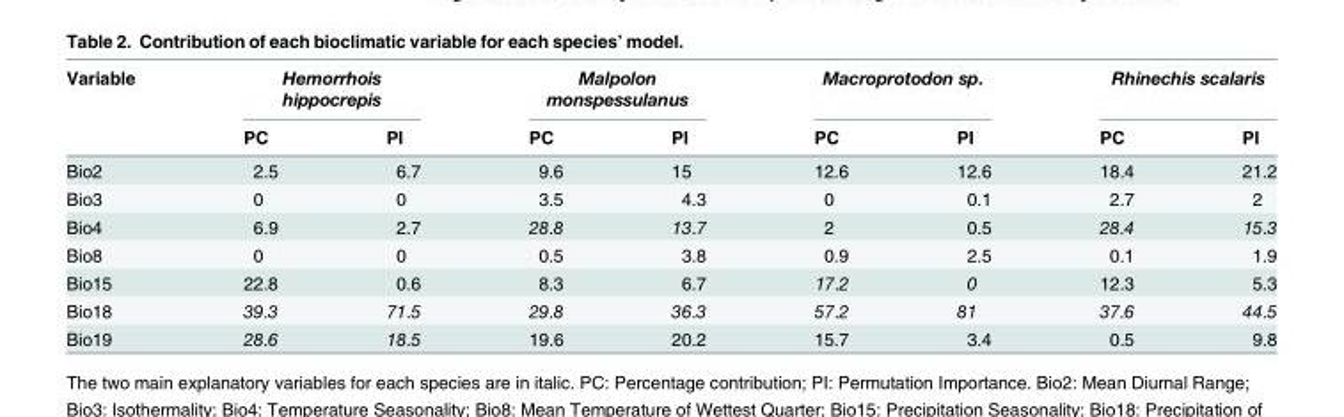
<table><thead><tr><td rowspan="2">Variable</td><td colspan="2">Hemorrhois hippocrepis</td><td colspan="2">Malpolon monspessulanus</td><td colspan="2">Macroprotodon sp.</td><td colspan="2">Rhinechis scalaris</td></tr><tr><td>PC</td><td>PI</td><td>PC</td><td>PI</td><td>PC</td><td>PI</td><td>PC</td><td>PI</td></tr></thead><tbody><tr><td>Bio2</td><td>2.5</td><td>6.7</td><td>9.6</td><td>15</td><td>12.6</td><td>12.6</td><td>18.4</td><td>21.2</td></tr><tr><td>Bio3</td><td>0</td><td>0</td><td>3.5</td><td>4.3</td><td>0</td><td>0.1</td><td>2.7</td><td>2</td></tr><tr><td>Bio4</td><td>6.9</td><td>2.7</td><td>28.8</td><td>13.7</td><td>2</td><td>0.5</td><td>28.4</td><td>15.3</td></tr><tr><td>Bio8</td><td>0</td><td>0</td><td>0.5</td><td>3.8</td><td>0.9</td><td>2.5</td><td>0.1</td><td>1.9</td></tr><tr><td>Bio15</td><td>22.8</td><td>0.6</td><td>8.3</td><td>6.7</td><td>17.2</td><td>0</td><td>12.3</td><td>5.3</td></tr><tr><td>Bio18</td><td>39.3</td><td>71.5</td><td>29.8</td><td>36.3</td><td>57.2</td><td>81</td><td>37.6</td><td>44.5</td></tr><tr><td>Bio19</td><td>28.6</td><td>18.5</td><td>19.6</td><td>20.2</td><td>15.7</td><td>3.4</td><td>0.5</td><td>9.8</td></tr></tbody></table>